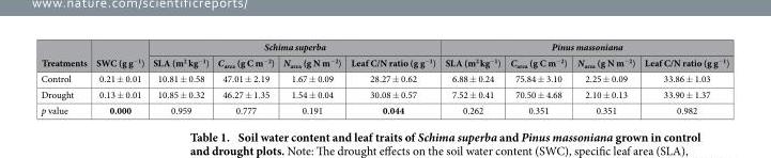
<table><thead><tr><td rowspan="2">Treatments</td><td rowspan="2">SWC (g g<sup>−1</sup>)</td><td colspan="4">Schima superba</td><td colspan="4">Pinus massoniana</td></tr><tr><td>SLA (m<sup>2</sup> kg<sup>−1</sup>)</td><td>C<sub>area</sub> (g C m<sup>−2</sup>)</td><td>N<sub>area</sub> (g N m<sup>−2</sup>)</td><td>Leaf C/N ratio (g g<sup>−1</sup>)</td><td>SLA (m<sup>2</sup> kg<sup>−1</sup>)</td><td>C<sub>area</sub> (g C m<sup>−2</sup>)</td><td>N<sub>area</sub> (g N m<sup>−2</sup>)</td><td>Leaf C/N ratio (g g<sup>−1</sup>)</td></tr></thead><tbody><tr><td>Control</td><td>0.21 ± 0.01</td><td>10.81 ± 0.58</td><td>47.01 ± 2.19</td><td>1.67 ± 0.09</td><td>28.27 ± 0.62</td><td>6.88 ± 0.24</td><td>75.84 ± 3.10</td><td>2.25 ± 0.09</td><td>33.86 ± 1.03</td></tr><tr><td>Drought</td><td>0.13 ± 0.01</td><td>10.85 ± 0.32</td><td>46.27 ± 1.35</td><td>1.54 ± 0.04</td><td>30.08 ± 0.57</td><td>7.52 ± 0.41</td><td>70.50 ± 4.68</td><td>2.10 ± 0.13</td><td>33.90 ± 1.37</td></tr><tr><td>p value</td><td>0.000</td><td>0.959</td><td>0.777</td><td>0.191</td><td>0.044</td><td>0.262</td><td>0.351</td><td>0.351</td><td>0.982</td></tr></tbody></table>